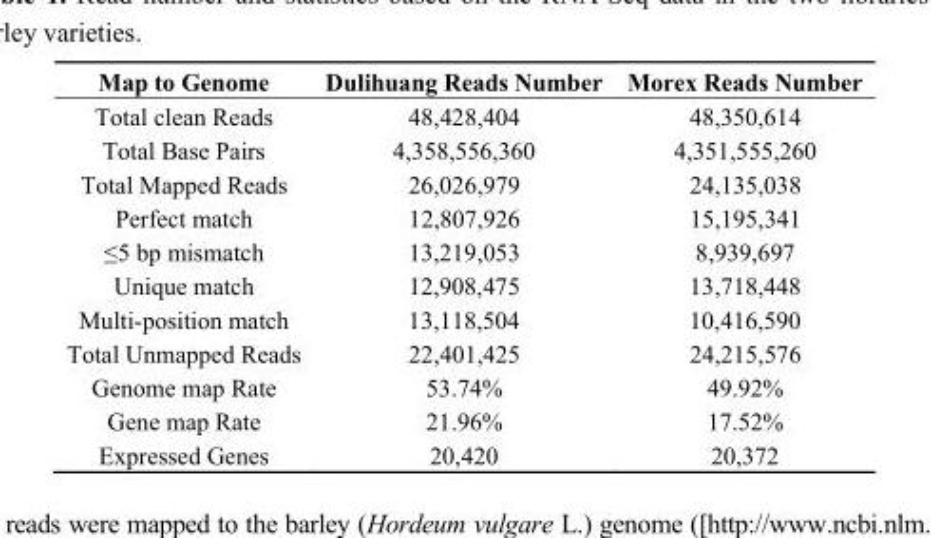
<table><thead><tr><td>Map to Genome</td><td>Dulihuang Reads Number</td><td>Morex Reads Number</td></tr></thead><tbody><tr><td>Total clean Reads</td><td>48,428,404</td><td>48,350,614</td></tr><tr><td>Total Base Pairs</td><td>4,358,556,360</td><td>4,351,555,260</td></tr><tr><td>Total Mapped Reads</td><td>26,026,979</td><td>24,135,038</td></tr><tr><td>Perfect match</td><td>12,807,926</td><td>15,195,341</td></tr><tr><td>≤5 bp mismatch</td><td>13,219,053</td><td>8,939,697</td></tr><tr><td>Unique match</td><td>12,908,475</td><td>13,718,448</td></tr><tr><td>Multi-position match</td><td>13,118,504</td><td>10,416,590</td></tr><tr><td>Total Unmapped Reads</td><td>22,401,425</td><td>24,215,576</td></tr><tr><td>Genome map Rate</td><td>53.74%</td><td>49.92%</td></tr><tr><td>Gene map Rate</td><td>21.96%</td><td>17.52%</td></tr><tr><td>Expressed Genes</td><td>20,420</td><td>20,372</td></tr></tbody></table>